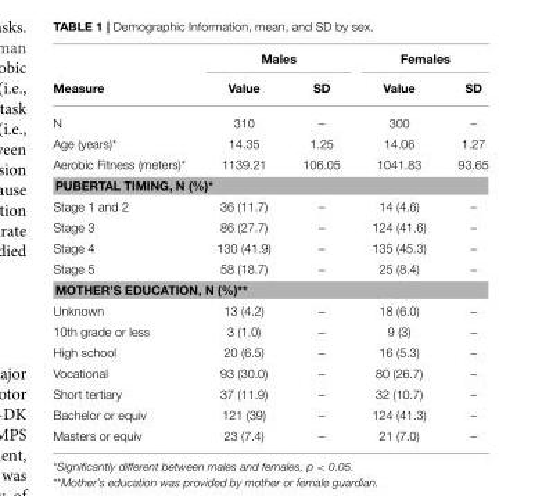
<table><thead><tr><td rowspan="2">Measure</td><td colspan="2">Males</td><td colspan="2">Females</td></tr><tr><td>Value</td><td>SD</td><td>Value</td><td>SD</td></tr></thead><tbody><tr><td>N</td><td>310</td><td>–</td><td>300</td><td>–</td></tr><tr><td>Age (years)*</td><td>14.35</td><td>1.25</td><td>14.06</td><td>1.27</td></tr><tr><td>Aerobic Fitness (meters)*</td><td>1139.21</td><td>106.05</td><td>1041.83</td><td>93.65</td></tr><tr><td colspan="5">PUBERTAL TIMING, N (%)*</td></tr><tr><td>Stage 1 and 2</td><td>36 (11.7)</td><td>–</td><td>14 (4.6)</td><td>–</td></tr><tr><td>Stage 3</td><td>86 (27.7)</td><td>–</td><td>124 (41.6)</td><td>–</td></tr><tr><td>Stage 4</td><td>130 (41.9)</td><td>–</td><td>135 (45.3)</td><td>–</td></tr><tr><td>Stage 5</td><td>58 (18.7)</td><td>–</td><td>25 (8.4)</td><td>–</td></tr><tr><td colspan="5">MOTHER’S EDUCATION, N (%)**</td></tr><tr><td>Unknown</td><td>13 (4.2)</td><td>–</td><td>18 (6.0)</td><td>–</td></tr><tr><td>10th grade or less</td><td>3 (1.0)</td><td>–</td><td>9 (3)</td><td>–</td></tr><tr><td>High school</td><td>20 (6.5)</td><td>–</td><td>16 (5.3)</td><td>–</td></tr><tr><td>Vocational</td><td>93 (30.0)</td><td>–</td><td>80 (26.7)</td><td>–</td></tr><tr><td>Short tertiary</td><td>37 (11.9)</td><td>–</td><td>32 (10.7)</td><td>–</td></tr><tr><td>Bachelor or equiv</td><td>121 (39)</td><td>–</td><td>124 (41.3)</td><td>–</td></tr><tr><td>Masters or equiv</td><td>23 (7.4)</td><td>–</td><td>21 (7.0)</td><td>–</td></tr></tbody></table>